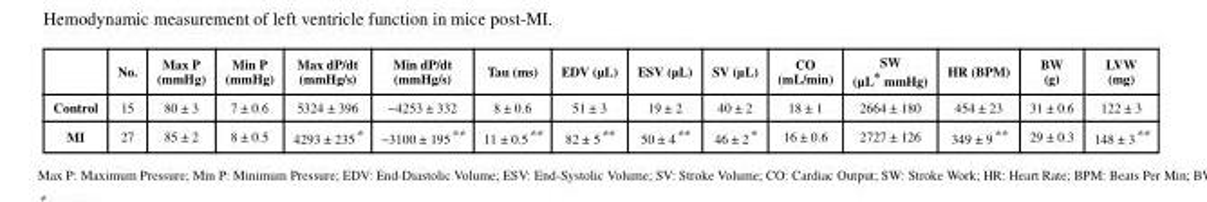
<table><thead><tr><td></td><td>No.</td><td>Max P (mmHg)</td><td>Min P (mmHg)</td><td>Max dP/dt (mmHg/s)</td><td>Min dP/dt (mmHg/s)</td><td>Tau (ms)</td><td>EDV (μL)</td><td>ESV (μL)</td><td>SV (μL)</td><td>CO (mL/min)</td><td>SW (μL* mmHg)</td><td>HR (BPM)</td><td>BW (g)</td><td>LVW (mg)</td></tr></thead><tbody><tr><td>Control</td><td>15</td><td>80 ± 3</td><td>7 ± 0.6</td><td>5324 ± 396</td><td>−4253 ± 332</td><td>8 ± 0.6</td><td>51 ± 3</td><td>19 ± 2</td><td>40 ± 2</td><td>18 ± 1</td><td>2664 ± 180</td><td>454 ± 23</td><td>31 ± 0.6</td><td>122 ± 3</td></tr><tr><td>MI</td><td>27</td><td>85 ± 2</td><td>8 ± 0.5</td><td>4293 ± 235*</td><td>−3100 ± 195**</td><td>11 ± 0.5**</td><td>82 ± 5**</td><td>50 ± 4**</td><td>46 ± 2*</td><td>16 ± 0.6</td><td>2727 ± 126</td><td>349 ± 9**</td><td>29 ± 0.3</td><td>148 ± 3**</td></tr></tbody></table>